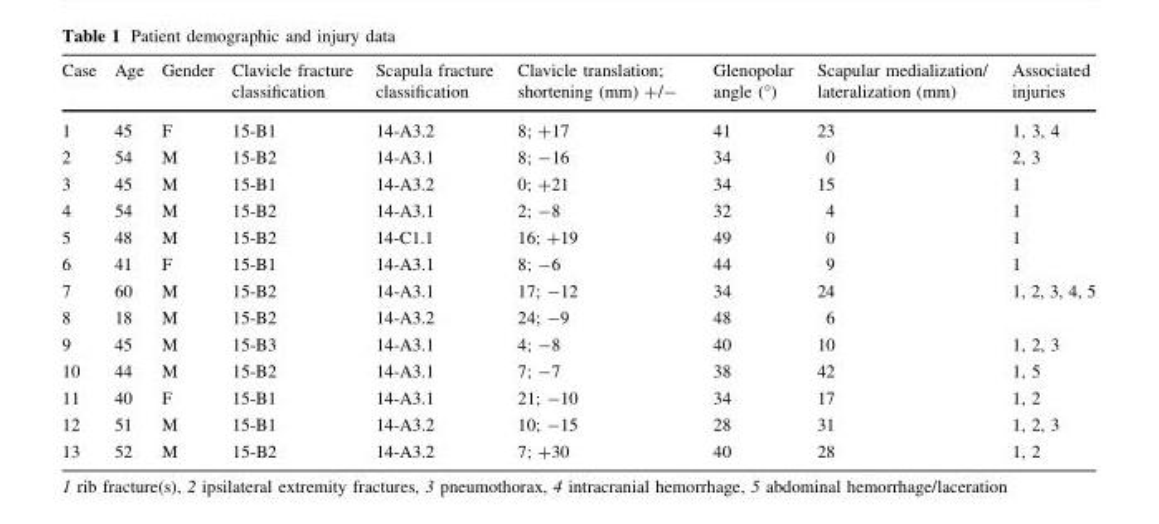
<table><thead><tr><td>Case</td><td>Age</td><td>Gender</td><td>Clavicle fracture classification</td><td>Scapula fracture classification</td><td>Clavicle translation; shortening (mm) +/-</td><td>Glenopolar angle (°)</td><td>Scapular medialization/ lateralization (mm)</td><td>Associated injuries</td></tr></thead><tbody><tr><td>1</td><td>45</td><td>F</td><td>15-B1</td><td>14-A3.2</td><td>8; +17</td><td>41</td><td>23</td><td>1, 3, 4</td></tr><tr><td>2</td><td>54</td><td>M</td><td>15-B2</td><td>14-A3.1</td><td>8; -16</td><td>34</td><td>0</td><td>2, 3</td></tr><tr><td>3</td><td>45</td><td>M</td><td>15-B1</td><td>14-A3.2</td><td>0; +21</td><td>34</td><td>15</td><td>1</td></tr><tr><td>4</td><td>54</td><td>M</td><td>15-B2</td><td>14-A3.1</td><td>2; -8</td><td>32</td><td>4</td><td>1</td></tr><tr><td>5</td><td>48</td><td>M</td><td>15-B2</td><td>14-C1.1</td><td>16; +19</td><td>49</td><td>0</td><td>1</td></tr><tr><td>6</td><td>41</td><td>F</td><td>15-B1</td><td>14-A3.1</td><td>8; -6</td><td>44</td><td>9</td><td>1</td></tr><tr><td>7</td><td>60</td><td>M</td><td>15-B2</td><td>14-A3.1</td><td>17; -12</td><td>34</td><td>24</td><td>1, 2, 3, 4, 5</td></tr><tr><td>8</td><td>18</td><td>M</td><td>15-B2</td><td>14-A3.2</td><td>24; -9</td><td>48</td><td>6</td><td></td></tr><tr><td>9</td><td>45</td><td>M</td><td>15-B3</td><td>14-A3.1</td><td>4; -8</td><td>40</td><td>10</td><td>1, 2, 3</td></tr><tr><td>10</td><td>44</td><td>M</td><td>15-B2</td><td>14-A3.1</td><td>7; -7</td><td>38</td><td>42</td><td>1, 5</td></tr><tr><td>11</td><td>40</td><td>F</td><td>15-B1</td><td>14-A3.1</td><td>21; -10</td><td>34</td><td>17</td><td>1, 2</td></tr><tr><td>12</td><td>51</td><td>M</td><td>15-B1</td><td>14-A3.2</td><td>10; -15</td><td>28</td><td>31</td><td>1, 2, 3</td></tr><tr><td>13</td><td>52</td><td>M</td><td>15-B2</td><td>14-A3.2</td><td>7; +30</td><td>40</td><td>28</td><td>1, 2</td></tr></tbody></table>